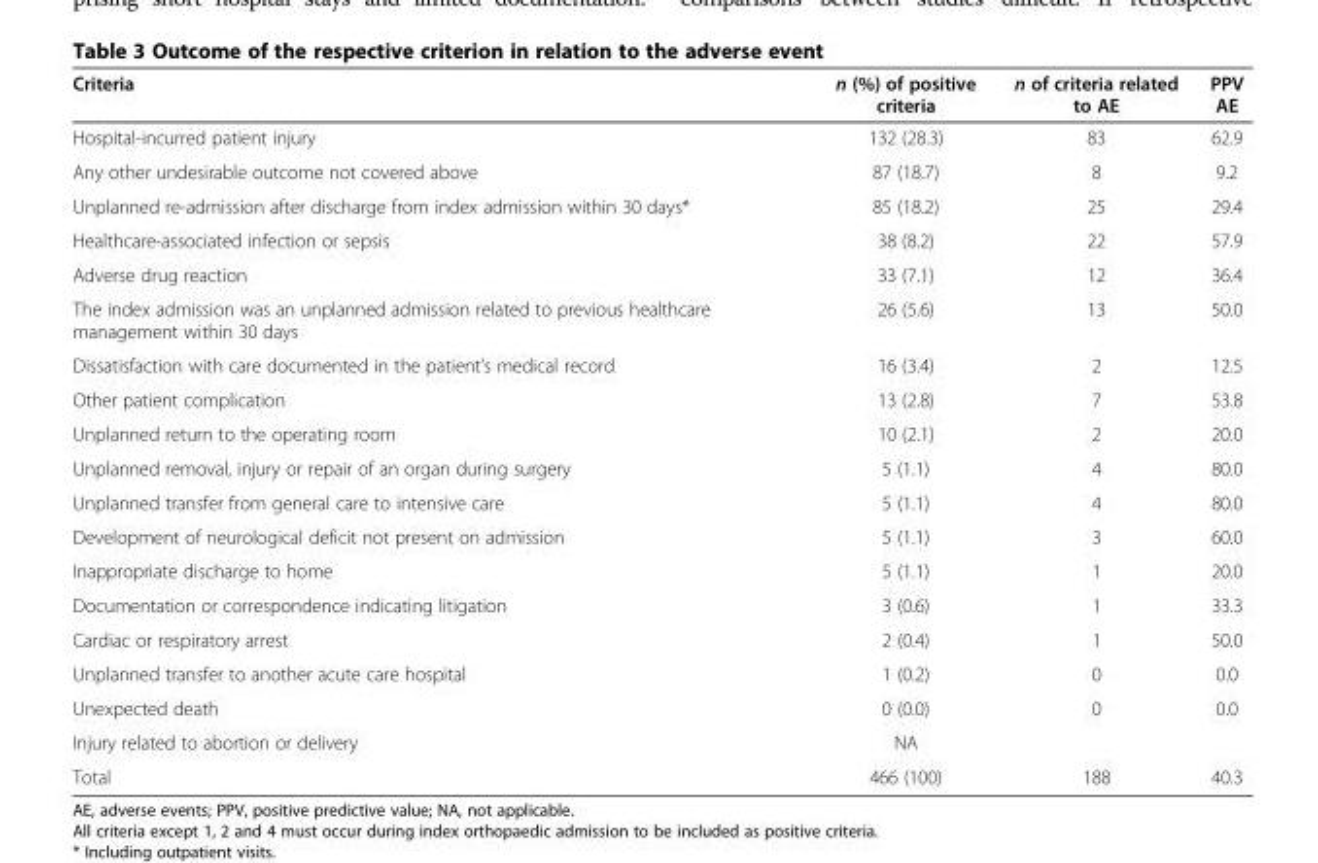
<table><thead><tr><td>Criteria</td><td>n (%) of positive criteria</td><td>n of criteria related to AE</td><td>PPV AE</td></tr></thead><tbody><tr><td>Hospital-incurred patient injury</td><td>132 (28.3)</td><td>83</td><td>62.9</td></tr><tr><td>Any other undesirable outcome not covered above</td><td>87 (18.7)</td><td>8</td><td>9.2</td></tr><tr><td>Unplanned re-admission after discharge from index admission within 30 days*</td><td>85 (18.2)</td><td>25</td><td>29.4</td></tr><tr><td>Healthcare-associated infection or sepsis</td><td>38 (8.2)</td><td>22</td><td>57.9</td></tr><tr><td>Adverse drug reaction</td><td>33 (7.1)</td><td>12</td><td>36.4</td></tr><tr><td>The index admission was an unplanned admission related to previous healthcare management within 30 days</td><td>26 (5.6)</td><td>13</td><td>50.0</td></tr><tr><td>Dissatisfaction with care documented in the patient’s medical record</td><td>16 (3.4)</td><td>2</td><td>12.5</td></tr><tr><td>Other patient complication</td><td>13 (2.8)</td><td>7</td><td>53.8</td></tr><tr><td>Unplanned return to the operating room</td><td>10 (2.1)</td><td>2</td><td>20.0</td></tr><tr><td>Unplanned removal, injury or repair of an organ during surgery</td><td>5 (1.1)</td><td>4</td><td>80.0</td></tr><tr><td>Unplanned transfer from general care to intensive care</td><td>5 (1.1)</td><td>4</td><td>80.0</td></tr><tr><td>Development of neurological deficit not present on admission</td><td>5 (1.1)</td><td>3</td><td>60.0</td></tr><tr><td>Inappropriate discharge to home</td><td>5 (1.1)</td><td>1</td><td>20.0</td></tr><tr><td>Documentation or correspondence indicating litigation</td><td>3 (0.6)</td><td>1</td><td>33.3</td></tr><tr><td>Cardiac or respiratory arrest</td><td>2 (0.4)</td><td>1</td><td>50.0</td></tr><tr><td>Unplanned transfer to another acute care hospital</td><td>1 (0.2)</td><td>0</td><td>0.0</td></tr><tr><td>Unexpected death</td><td>0 (0.0)</td><td>0</td><td>0.0</td></tr><tr><td>Injury related to abortion or delivery</td><td>NA</td><td></td><td></td></tr><tr><td>Total</td><td>466 (100)</td><td>188</td><td>40.3</td></tr></tbody></table>